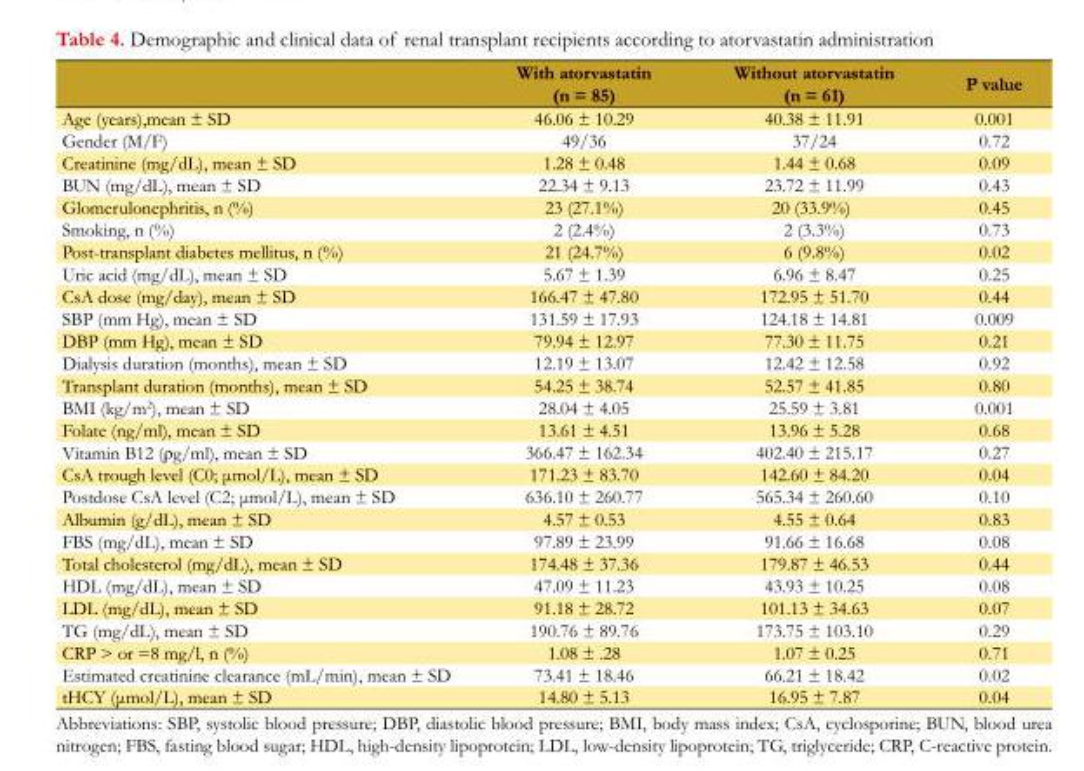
<table><thead><tr><td></td><td>With atorvastatin (n = 85)</td><td>Without atorvastatin (n = 61)</td><td>P value</td></tr></thead><tbody><tr><td>Age (years),mean ± SD</td><td>46.06 ± 10.29</td><td>40.38 ± 11.91</td><td>0.001</td></tr><tr><td>Gender (M/F)</td><td>49/36</td><td>37/24</td><td>0.72</td></tr><tr><td>Creatinine (mg/dL), mean ± SD</td><td>1.28 ± 0.48</td><td>1.44 ± 0.68</td><td>0.09</td></tr><tr><td>BUN (mg/dL), mean ± SD</td><td>22.34 ± 9.13</td><td>23.72 ± 11.99</td><td>0.43</td></tr><tr><td>Glomerulonephritis, n (%)</td><td>23 (27.1%)</td><td>20 (33.9%)</td><td>0.45</td></tr><tr><td>Smoking, n (%)</td><td>2 (2.4%)</td><td>2 (3.3%)</td><td>0.73</td></tr><tr><td>Post-transplant diabetes mellitus, n (%)</td><td>21 (24.7%)</td><td>6 (9.8%)</td><td>0.02</td></tr><tr><td>Uric acid (mg/dL), mean ± SD</td><td>5.67 ± 1.39</td><td>6.96 ± 8.47</td><td>0.25</td></tr><tr><td>CsA dose (mg/day), mean ± SD</td><td>166.47 ± 47.80</td><td>172.95 ± 51.70</td><td>0.44</td></tr><tr><td>SBP (mm Hg), mean ± SD</td><td>131.59 ± 17.93</td><td>124.18 ± 14.81</td><td>0.009</td></tr><tr><td>DBP (mm Hg), mean ± SD</td><td>79.94 ± 12.97</td><td>77.30 ± 11.75</td><td>0.21</td></tr><tr><td>Dialysis duration (months), mean ± SD</td><td>12.19 ± 13.07</td><td>12.42 ± 12.58</td><td>0.92</td></tr><tr><td>Transplant duration (months), mean ± SD</td><td>54.25 ± 38.74</td><td>52.57 ± 41.85</td><td>0.80</td></tr><tr><td>BMI (kg/m<sup>2</sup>), mean ± SD</td><td>28.04 ± 4.05</td><td>25.59 ± 3.81</td><td>0.001</td></tr><tr><td>Folate (ng/ml), mean ± SD</td><td>13.61 ± 4.51</td><td>13.96 ± 5.28</td><td>0.68</td></tr><tr><td>Vitamin B12 (ρg/ml), mean ± SD</td><td>366.47 ± 162.34</td><td>402.40 ± 215.17</td><td>0.27</td></tr><tr><td>CsA trough level (C0; μmol/L), mean ± SD</td><td>171.23 ± 83.70</td><td>142.60 ± 84.20</td><td>0.04</td></tr><tr><td>Postdose CsA level (C2; μmol/L), mean ± SD</td><td>636.10 ± 260.77</td><td>565.34 ± 260.60</td><td>0.10</td></tr><tr><td>Albumin (g/dL), mean ± SD</td><td>4.57 ± 0.53</td><td>4.55 ± 0.64</td><td>0.83</td></tr><tr><td>FBS (mg/dL), mean ± SD</td><td>97.89 ± 23.99</td><td>91.66 ± 16.68</td><td>0.08</td></tr><tr><td>Total cholesterol (mg/dL), mean ± SD</td><td>174.48 ± 37.36</td><td>179.87 ± 46.53</td><td>0.44</td></tr><tr><td>HDL (mg/dL), mean ± SD</td><td>47.09 ± 11.23</td><td>43.93 ± 10.25</td><td>0.08</td></tr><tr><td>LDL (mg/dL), mean ± SD</td><td>91.18 ± 28.72</td><td>101.13 ± 34.63</td><td>0.07</td></tr><tr><td>TG (mg/dL), mean ± SD</td><td>190.76 ± 89.76</td><td>173.75 ± 103.10</td><td>0.29</td></tr><tr><td>CRP &gt; or =8 mg/l, n (%)</td><td>1.08 ± .28</td><td>1.07 ± 0.25</td><td>0.71</td></tr><tr><td>Estimated creatinine clearance (mL/min), mean ± SD</td><td>73.41 ± 18.46</td><td>66.21 ± 18.42</td><td>0.02</td></tr><tr><td>tHCY (μmol/L), mean ± SD</td><td>14.80 ± 5.13</td><td>16.95 ± 7.87</td><td>0.04</td></tr></tbody></table>